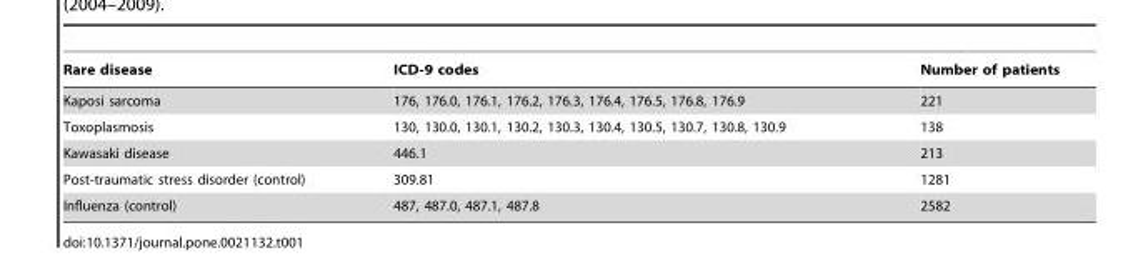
<table><thead><tr><td>Rare disease</td><td>ICD-9 codes</td><td>Number of patients</td></tr></thead><tbody><tr><td>Kaposi sarcoma</td><td>176, 176.0, 176.1, 176.2, 176.3, 176.4, 176.5, 176.8, 176.9</td><td>221</td></tr><tr><td>Toxoplasmosis</td><td>130, 130.0, 130.1, 130.2, 130.3, 130.4, 130.5, 130.7, 130.8, 130.9</td><td>138</td></tr><tr><td>Kawasaki disease</td><td>446.1</td><td>213</td></tr><tr><td>Post-traumatic stress disorder (control)</td><td>309.81</td><td>1281</td></tr><tr><td>Influenza (control)</td><td>487, 487.0, 487.1, 487.8</td><td>2582</td></tr></tbody></table>